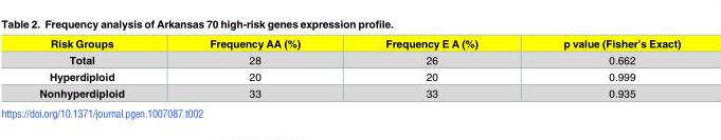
<table><thead><tr><td>Risk Groups</td><td>Frequency AA (%)</td><td>Frequency E A (%)</td><td>p value (Fisher’s Exact)</td></tr></thead><tbody><tr><td>Total</td><td>28</td><td>26</td><td>0.662</td></tr><tr><td>Hyperdiploid</td><td>20</td><td>20</td><td>0.999</td></tr><tr><td>Nonhyperdiploid</td><td>33</td><td>33</td><td>0.935</td></tr></tbody></table>